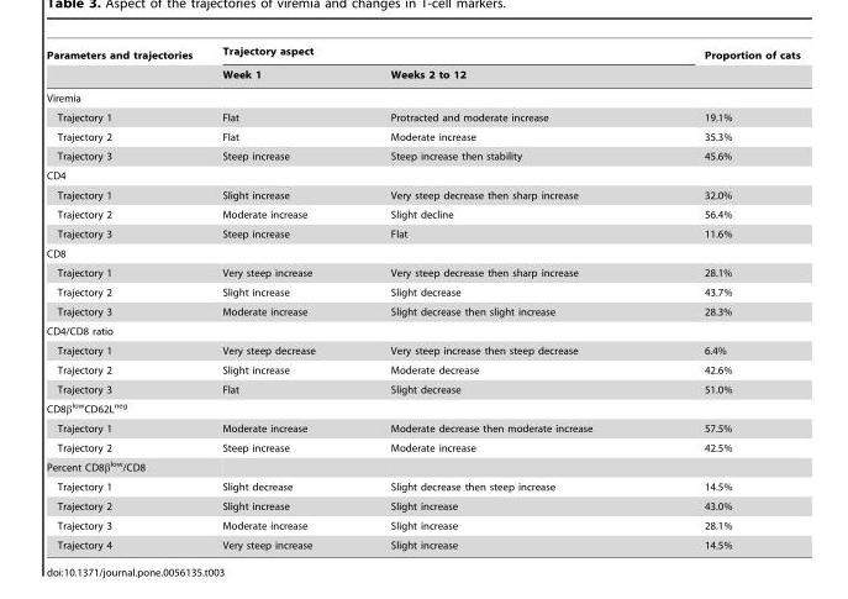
<table><thead><tr><td rowspan="2">Parameters and trajectories</td><td colspan="2">Trajectory aspect</td><td rowspan="2">Proportion of cats</td></tr><tr><td>Week 1</td><td>Weeks 2 to 12</td></tr></thead><tbody><tr><td colspan="4">Viremia</td></tr><tr><td>Trajectory 1</td><td>Flat</td><td>Protracted and moderate increase</td><td>19.1%</td></tr><tr><td>Trajectory 2</td><td>Flat</td><td>Moderate increase</td><td>35.3%</td></tr><tr><td>Trajectory 3</td><td>Steep increase</td><td>Steep increase then stability</td><td>45.6%</td></tr><tr><td colspan="4">CD4</td></tr><tr><td>Trajectory 1</td><td>Slight increase</td><td>Very steep decrease then sharp increase</td><td>32.0%</td></tr><tr><td>Trajectory 2</td><td>Moderate increase</td><td>Slight decline</td><td>56.4%</td></tr><tr><td>Trajectory 3</td><td>Steep increase</td><td>Flat</td><td>11.6%</td></tr><tr><td colspan="4">CD8</td></tr><tr><td>Trajectory 1</td><td>Very steep increase</td><td>Very steep decrease then sharp increase</td><td>28.1%</td></tr><tr><td>Trajectory 2</td><td>Slight increase</td><td>Slight decrease</td><td>43.7%</td></tr><tr><td>Trajectory 3</td><td>Moderate increase</td><td>Slight decrease then slight increase</td><td>28.3%</td></tr><tr><td colspan="4">CD4/CD8 ratio</td></tr><tr><td>Trajectory 1</td><td>Very steep decrease</td><td>Very steep increase then steep decrease</td><td>6.4%</td></tr><tr><td>Trajectory 2</td><td>Slight increase</td><td>Moderate decrease</td><td>42.6%</td></tr><tr><td>Trajectory 3</td><td>Flat</td><td>Slight decrease</td><td>51.0%</td></tr><tr><td colspan="4">CD8β<sup>low</sup>CD62L<sup>neg</sup></td></tr><tr><td>Trajectory 1</td><td>Moderate increase</td><td>Moderate decrease then moderate increase</td><td>57.5%</td></tr><tr><td>Trajectory 2</td><td>Steep increase</td><td>Moderate increase</td><td>42.5%</td></tr><tr><td colspan="4">Percent CD8β<sup>low</sup>/CD8</td></tr><tr><td>Trajectory 1</td><td>Slight decrease</td><td>Slight decrease then steep increase</td><td>14.5%</td></tr><tr><td>Trajectory 2</td><td>Slight increase</td><td>Slight increase</td><td>43.0%</td></tr><tr><td>Trajectory 3</td><td>Moderate increase</td><td>Slight increase</td><td>28.1%</td></tr><tr><td>Trajectory 4</td><td>Very steep increase</td><td>Slight increase</td><td>14.5%</td></tr></tbody></table>